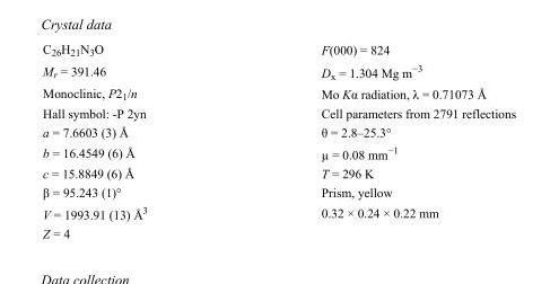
<table><tbody><tr><td>C<sub>26</sub>H<sub>21</sub>N<sub>3</sub>O</td><td>F(000) = 824</td></tr><tr><td>M<sub>r</sub> = 391.46</td><td>D<sub>x</sub> = 1.304 Mg m<sup>−3</sup></td></tr><tr><td>Monoclinic, P2<sub>1</sub>/n</td><td>Mo Kα radiation, λ = 0.71073 Å</td></tr><tr><td>Hall symbol: -P 2yn</td><td>Cell parameters from 2791 reflections</td></tr><tr><td>a = 7.6603 (3) Å</td><td>θ = 2.8–25.3°</td></tr><tr><td>b = 16.4549 (6) Å</td><td>µ = 0.08 mm<sup>−1</sup></td></tr><tr><td>c = 15.8849 (6) Å</td><td>T = 296 K</td></tr><tr><td>β = 95.243 (1)°</td><td>Prism, yellow</td></tr><tr><td>V = 1993.91 (13) Å<sup>3</sup></td><td>0.32 × 0.24 × 0.22 mm</td></tr><tr><td>Z = 4</td><td></td></tr></tbody></table>